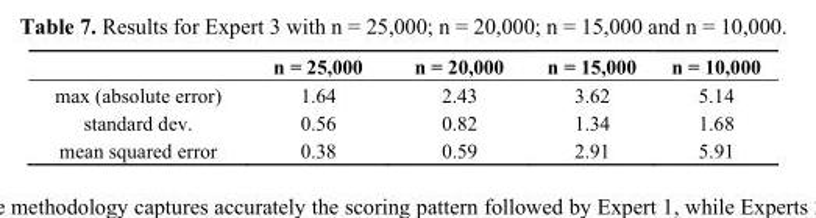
<table><thead><tr><td></td><td>n = 25,000</td><td>n = 20,000</td><td>n = 15,000</td><td>n = 10,000</td></tr></thead><tbody><tr><td>max (absolute error)</td><td>1.64</td><td>2.43</td><td>3.62</td><td>5.14</td></tr><tr><td>standard dev.</td><td>0.56</td><td>0.82</td><td>1.34</td><td>1.68</td></tr><tr><td>mean squared error</td><td>0.38</td><td>0.59</td><td>2.91</td><td>5.91</td></tr></tbody></table>